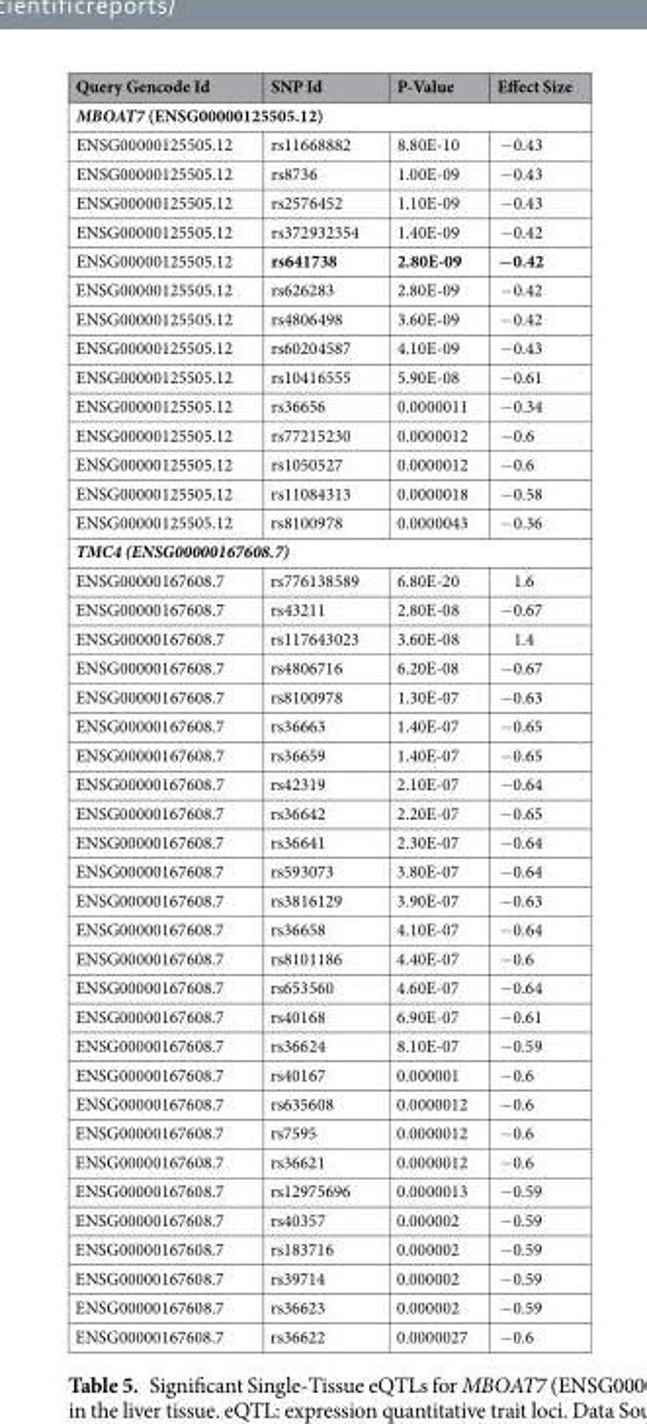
<table><thead><tr><td>Query Gencode Id</td><td>SNP Id</td><td>P-Value</td><td>Effect Size</td></tr></thead><tbody><tr><td colspan="4">MBOAT7 (ENSG00000125505.12)</td></tr><tr><td>ENSG00000125505.12</td><td>rs11668882</td><td>8.80E-10</td><td>−0.43</td></tr><tr><td>ENSG00000125505.12</td><td>rs8736</td><td>1.00E-09</td><td>−0.43</td></tr><tr><td>ENSG00000125505.12</td><td>rs2576452</td><td>1.10E-09</td><td>−0.43</td></tr><tr><td>ENSG00000125505.12</td><td>rs372932354</td><td>1.40E-09</td><td>−0.42</td></tr><tr><td>ENSG00000125505.12</td><td>rs641738</td><td>2.80E-09</td><td>−0.42</td></tr><tr><td>ENSG00000125505.12</td><td>rs626283</td><td>2.80E-09</td><td>−0.42</td></tr><tr><td>ENSG00000125505.12</td><td>rs4806498</td><td>3.60E-09</td><td>−0.42</td></tr><tr><td>ENSG00000125505.12</td><td>rs60204587</td><td>4.10E-09</td><td>−0.43</td></tr><tr><td>ENSG00000125505.12</td><td>rs10416555</td><td>5.90E-08</td><td>−0.61</td></tr><tr><td>ENSG00000125505.12</td><td>rs36656</td><td>0.0000011</td><td>−0.34</td></tr><tr><td>ENSG00000125505.12</td><td>rs77215230</td><td>0.0000012</td><td>−0.6</td></tr><tr><td>ENSG00000125505.12</td><td>rs1050527</td><td>0.0000012</td><td>−0.6</td></tr><tr><td>ENSG00000125505.12</td><td>rs11084313</td><td>0.0000018</td><td>−0.58</td></tr><tr><td>ENSG00000125505.12</td><td>rs8100978</td><td>0.0000043</td><td>−0.36</td></tr><tr><td colspan="4">TMC4 (ENSG00000167608.7)</td></tr><tr><td>ENSG00000167608.7</td><td>rs776138589</td><td>6.80E-20</td><td>1.6</td></tr><tr><td>ENSG00000167608.7</td><td>rs43211</td><td>2.80E-08</td><td>−0.67</td></tr><tr><td>ENSG00000167608.7</td><td>rs117643023</td><td>3.60E-08</td><td>1.4</td></tr><tr><td>ENSG00000167608.7</td><td>rs4806716</td><td>6.20E-08</td><td>−0.67</td></tr><tr><td>ENSG00000167608.7</td><td>rs8100978</td><td>1.30E-07</td><td>−0.63</td></tr><tr><td>ENSG00000167608.7</td><td>rs36663</td><td>1.40E-07</td><td>−0.65</td></tr><tr><td>ENSG00000167608.7</td><td>rs36659</td><td>1.40E-07</td><td>−0.65</td></tr><tr><td>ENSG00000167608.7</td><td>rs42319</td><td>2.10E-07</td><td>−0.64</td></tr><tr><td>ENSG00000167608.7</td><td>rs36642</td><td>2.20E-07</td><td>−0.65</td></tr><tr><td>ENSG00000167608.7</td><td>rs36641</td><td>2.30E-07</td><td>−0.64</td></tr><tr><td>ENSG00000167608.7</td><td>rs593073</td><td>3.80E-07</td><td>−0.64</td></tr><tr><td>ENSG00000167608.7</td><td>rs3816129</td><td>3.90E-07</td><td>−0.63</td></tr><tr><td>ENSG00000167608.7</td><td>rs36658</td><td>4.10E-07</td><td>−0.64</td></tr><tr><td>ENSG00000167608.7</td><td>rs8101186</td><td>4.40E-07</td><td>−0.6</td></tr><tr><td>ENSG00000167608.7</td><td>rs653560</td><td>4.60E-07</td><td>−0.64</td></tr><tr><td>ENSG00000167608.7</td><td>rs40168</td><td>6.90E-07</td><td>−0.61</td></tr><tr><td>ENSG00000167608.7</td><td>rs36624</td><td>8.10E-07</td><td>−0.59</td></tr><tr><td>ENSG00000167608.7</td><td>rs40167</td><td>0.000001</td><td>−0.6</td></tr><tr><td>ENSG00000167608.7</td><td>rs635608</td><td>0.0000012</td><td>−0.6</td></tr><tr><td>ENSG00000167608.7</td><td>rs7595</td><td>0.0000012</td><td>−0.6</td></tr><tr><td>ENSG00000167608.7</td><td>rs36621</td><td>0.0000012</td><td>−0.6</td></tr><tr><td>ENSG00000167608.7</td><td>rs12975696</td><td>0.0000013</td><td>−0.59</td></tr><tr><td>ENSG00000167608.7</td><td>rs40357</td><td>0.000002</td><td>−0.59</td></tr><tr><td>ENSG00000167608.7</td><td>rs183716</td><td>0.000002</td><td>−0.59</td></tr><tr><td>ENSG00000167608.7</td><td>rs39714</td><td>0.000002</td><td>−0.59</td></tr><tr><td>ENSG00000167608.7</td><td>rs36623</td><td>0.000002</td><td>−0.59</td></tr><tr><td>ENSG00000167608.7</td><td>rs36622</td><td>0.0000027</td><td>−0.6</td></tr></tbody></table>